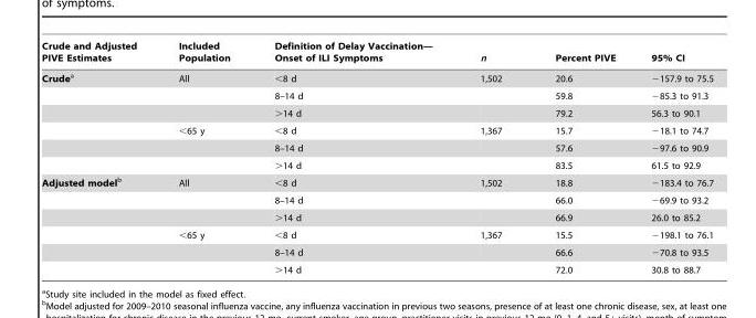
<table><thead><tr><td>Crude and Adjusted PIVE Estimates</td><td>Included Population</td><td>Definition of Delay Vaccination— Onset of ILI Symptoms</td><td>n</td><td>Percent PIVE</td><td>95% CI</td></tr></thead><tbody><tr><td rowspan="6">Crudea</td><td>All</td><td>&lt;8 d</td><td>1,502</td><td>20.6</td><td>−157.9 to 75.5</td></tr><tr><td></td><td>8–14 d</td><td></td><td>59.8</td><td>−85.3 to 91.3</td></tr><tr><td></td><td>&gt;14 d</td><td></td><td>79.2</td><td>56.3 to 90.1</td></tr><tr><td>&lt;65 y</td><td>&lt;8 d</td><td>1,367</td><td>15.7</td><td>−18.1 to 74.7</td></tr><tr><td></td><td>8–14 d</td><td></td><td>57.6</td><td>−97.6 to 90.9</td></tr><tr><td></td><td>&gt;14 d</td><td></td><td>83.5</td><td>61.5 to 92.9</td></tr><tr><td rowspan="6">Adjusted modelb</td><td>All</td><td>&lt;8 d</td><td>1,502</td><td>18.8</td><td>−183.4 to 76.7</td></tr><tr><td></td><td>8–14 d</td><td></td><td>66.0</td><td>−69.9 to 93.2</td></tr><tr><td></td><td>&gt;14 d</td><td></td><td>66.9</td><td>26.0 to 85.2</td></tr><tr><td>&lt;65 y</td><td>&lt;8 d</td><td>1,367</td><td>15.5</td><td>−198.1 to 76.1</td></tr><tr><td></td><td>8–14 d</td><td></td><td>66.6</td><td>−70.8 to 93.5</td></tr><tr><td></td><td>&gt;14 d</td><td></td><td>72.0</td><td>30.8 to 88.7</td></tr></tbody></table>